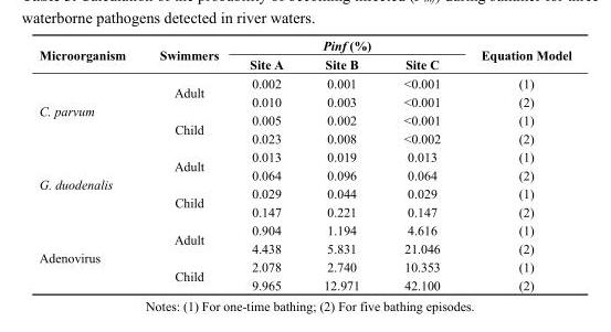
<table><thead><tr><td rowspan="2">Microorganism</td><td rowspan="2">Swimmers</td><td colspan="3">Pinf (%)</td><td rowspan="2">Equation Model</td></tr><tr><td>Site A</td><td>Site B</td><td>Site C</td></tr></thead><tbody><tr><td rowspan="4">C. parvum</td><td rowspan="2">Adult</td><td>0.002</td><td>0.001</td><td>&lt;0.001</td><td>(1)</td></tr><tr><td>0.010</td><td>0.003</td><td>&lt;0.001</td><td>(2)</td></tr><tr><td rowspan="2">Child</td><td>0.005</td><td>0.002</td><td>&lt;0.001</td><td>(1)</td></tr><tr><td>0.023</td><td>0.008</td><td>&lt;0.002</td><td>(2)</td></tr><tr><td rowspan="4">G. duodenalis</td><td rowspan="2">Adult</td><td>0.013</td><td>0.019</td><td>0.013</td><td>(1)</td></tr><tr><td>0.064</td><td>0.096</td><td>0.064</td><td>(2)</td></tr><tr><td rowspan="2">Child</td><td>0.029</td><td>0.044</td><td>0.029</td><td>(1)</td></tr><tr><td>0.147</td><td>0.221</td><td>0.147</td><td>(2)</td></tr><tr><td rowspan="4">Adenovirus</td><td rowspan="2">Adult</td><td>0.904</td><td>1.194</td><td>4.616</td><td>(1)</td></tr><tr><td>4.438</td><td>5.831</td><td>21.046</td><td>(2)</td></tr><tr><td rowspan="2">Child</td><td>2.078</td><td>2.740</td><td>10.353</td><td>(1)</td></tr><tr><td>9.965</td><td>12.971</td><td>42.100</td><td>(2)</td></tr></tbody></table>